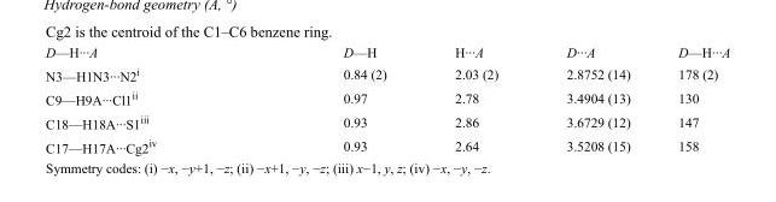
<table><tbody><tr><td>D—H···A</td><td>D—H</td><td>H···A</td><td>D···A</td><td>D—H···A</td></tr><tr><td>N3—H1N3···N2<sup>i</sup></td><td>0.84 (2)</td><td>2.03 (2)</td><td>2.8752 (14)</td><td>178 (2)</td></tr><tr><td>C9—H9A···Cl1<sup>ii</sup></td><td>0.97</td><td>2.78</td><td>3.4904 (13)</td><td>130</td></tr><tr><td>C18—H18A···S1<sup>iii</sup></td><td>0.93</td><td>2.86</td><td>3.6729 (12)</td><td>147</td></tr><tr><td>C17—H17A···Cg2<sup>iv</sup></td><td>0.93</td><td>2.64</td><td>3.5208 (15)</td><td>158</td></tr></tbody></table>